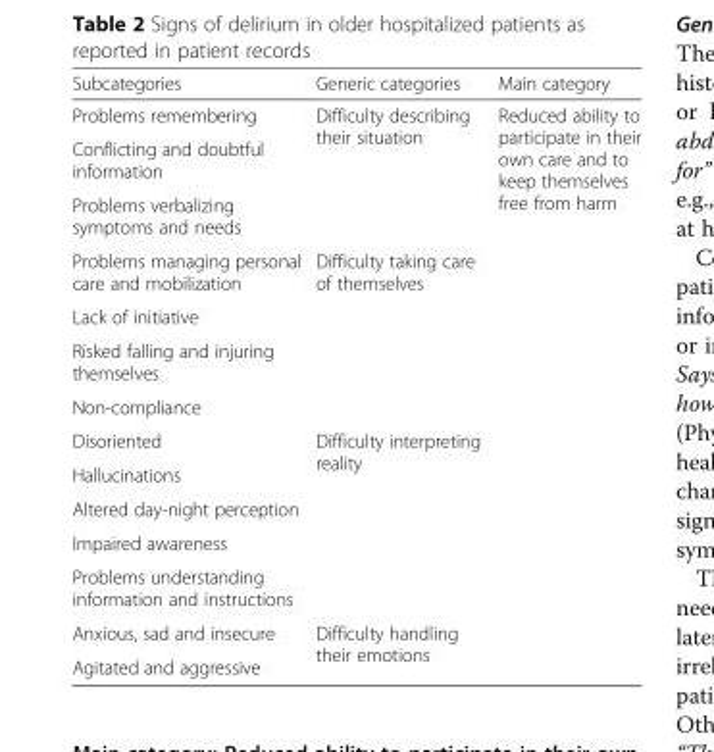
<table><thead><tr><td>Subcategories</td><td>Generic categories</td><td>Main category</td></tr></thead><tbody><tr><td>Problems remembering</td><td rowspan="3">Difficulty describing their situation</td><td rowspan="14">Reduced ability to participate in their own care and to keep themselves free from harm</td></tr><tr><td>Conflicting and doubtful information</td></tr><tr><td>Problems verbalizing symptoms and needs</td></tr><tr><td>Problems managing personal care and mobilization</td><td rowspan="4">Difficulty taking care of themselves</td></tr><tr><td>Lack of initiative</td></tr><tr><td>Risked falling and injuring themselves</td></tr><tr><td>Non-compliance</td></tr><tr><td>Disoriented</td><td rowspan="5">Difficulty interpreting reality</td></tr><tr><td>Hallucinations</td></tr><tr><td>Altered day-night perception</td></tr><tr><td>Impaired awareness</td></tr><tr><td>Problems understanding information and instructions</td></tr><tr><td>Anxious, sad and insecure</td><td rowspan="2">Difficulty handling their emotions</td></tr><tr><td>Agitated and aggressive</td></tr></tbody></table>